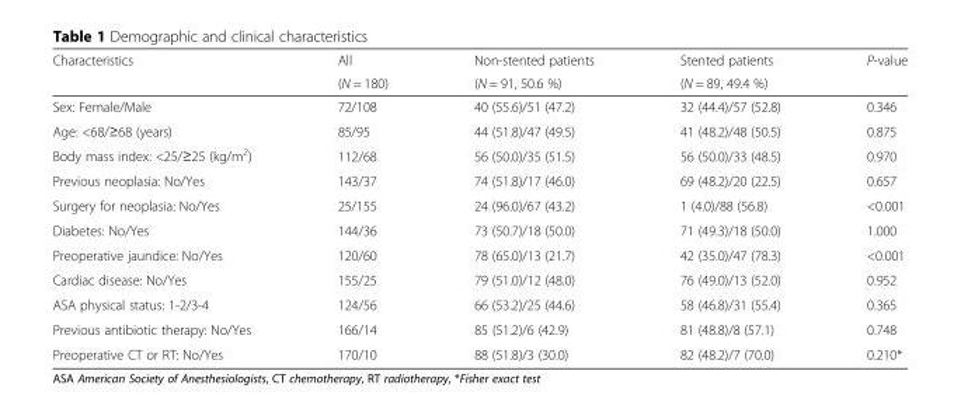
<table><thead><tr><td rowspan="2">Characteristics</td><td rowspan="2">All (N = 180)</td><td rowspan="2">Non-stented patients (N = 91, 50.6 %)</td><td rowspan="2">Stented patients (N = 89, 49.4 %)</td><td rowspan="2">P-value</td></tr><tr></tr></thead><tbody><tr><td>Sex: Female/Male</td><td>72/108</td><td>40 (55.6)/51 (47.2)</td><td>32 (44.4)/57 (52.8)</td><td>0.346</td></tr><tr><td>Age: &lt;68/≥68 (years)</td><td>85/95</td><td>44 (51.8)/47 (49.5)</td><td>41 (48.2)/48 (50.5)</td><td>0.875</td></tr><tr><td>Body mass index: &lt;25/≥25 (kg/m<sup>2</sup>)</td><td>112/68</td><td>56 (50.0)/35 (51.5)</td><td>56 (50.0)/33 (48.5)</td><td>0.970</td></tr><tr><td>Previous neoplasia: No/Yes</td><td>143/37</td><td>74 (51.8)/17 (46.0)</td><td>69 (48.2)/20 (22.5)</td><td>0.657</td></tr><tr><td>Surgery for neoplasia: No/Yes</td><td>25/155</td><td>24 (96.0)/67 (43.2)</td><td>1 (4.0)/88 (56.8)</td><td>&lt;0.001</td></tr><tr><td>Diabetes: No/Yes</td><td>144/36</td><td>73 (50.7)/18 (50.0)</td><td>71 (49.3)/18 (50.0)</td><td>1.000</td></tr><tr><td>Preoperative jaundice: No/Yes</td><td>120/60</td><td>78 (65.0)/13 (21.7)</td><td>42 (35.0)/47 (78.3)</td><td>&lt;0.001</td></tr><tr><td>Cardiac disease: No/Yes</td><td>155/25</td><td>79 (51.0)/12 (48.0)</td><td>76 (49.0)/13 (52.0)</td><td>0.952</td></tr><tr><td>ASA physical status: 1-2/3-4</td><td>124/56</td><td>66 (53.2)/25 (44.6)</td><td>58 (46.8)/31 (55.4)</td><td>0.365</td></tr><tr><td>Previous antibiotic therapy: No/Yes</td><td>166/14</td><td>85 (51.2)/6 (42.9)</td><td>81 (48.8)/8 (57.1)</td><td>0.748</td></tr><tr><td>Preoperative CT or RT: No/Yes</td><td>170/10</td><td>88 (51.8)/3 (30.0)</td><td>82 (48.2)/7 (70.0)</td><td>0.210*</td></tr></tbody></table>